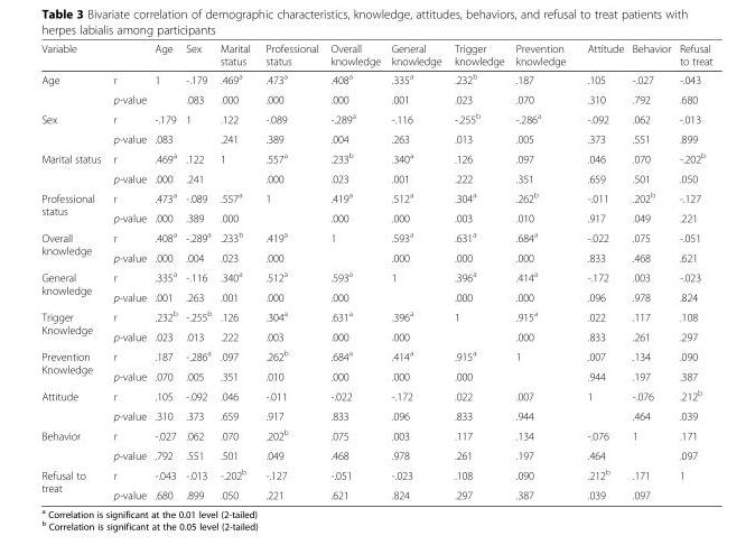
<table><thead><tr><td>Variable</td><td></td><td>Age</td><td>Sex</td><td>Marital status</td><td>Professional status</td><td>Overall knowledge</td><td>General knowledge</td><td>Trigger knowledge</td><td>Prevention knowledge</td><td>Attitude</td><td>Behavior</td><td>Refusal to treat</td></tr></thead><tbody><tr><td rowspan="2">Age</td><td>r</td><td>1</td><td>-.179</td><td>.469<sup>a</sup></td><td>.473<sup>a</sup></td><td>.408<sup>a</sup></td><td>.335<sup>a</sup></td><td>.232<sup>b</sup></td><td>.187</td><td>.105</td><td>-.027</td><td>-.043</td></tr><tr><td>p-value</td><td></td><td>.083</td><td>.000</td><td>.000</td><td>.000</td><td>.001</td><td>.023</td><td>.070</td><td>.310</td><td>.792</td><td>.680</td></tr><tr><td rowspan="2">Sex</td><td>r</td><td>-.179</td><td>1</td><td>.122</td><td>-.089</td><td>-.289<sup>a</sup></td><td>-.116</td><td>-.255<sup>b</sup></td><td>-.286<sup>a</sup></td><td>-.092</td><td>.062</td><td>-.013</td></tr><tr><td>p-value</td><td>.083</td><td></td><td>.241</td><td>.389</td><td>.004</td><td>.263</td><td>.013</td><td>.005</td><td>.373</td><td>.551</td><td>.899</td></tr><tr><td rowspan="2">Marital status</td><td>r</td><td>.469<sup>a</sup></td><td>.122</td><td>1</td><td>.557<sup>a</sup></td><td>.233<sup>b</sup></td><td>.340<sup>a</sup></td><td>.126</td><td>.097</td><td>.046</td><td>.070</td><td>-.202<sup>b</sup></td></tr><tr><td>p-value</td><td>.000</td><td>.241</td><td></td><td>.000</td><td>.023</td><td>.001</td><td>.222</td><td>.351</td><td>.659</td><td>.501</td><td>.050</td></tr><tr><td rowspan="2">Professional status</td><td>r</td><td>.473<sup>a</sup></td><td>-.089</td><td>.557<sup>a</sup></td><td>1</td><td>.419<sup>a</sup></td><td>.512<sup>a</sup></td><td>.304<sup>a</sup></td><td>.262<sup>b</sup></td><td>-.011</td><td>.202<sup>b</sup></td><td>-.127</td></tr><tr><td>p-value</td><td>.000</td><td>.389</td><td>.000</td><td></td><td>.000</td><td>.000</td><td>.003</td><td>.010</td><td>.917</td><td>.049</td><td>.221</td></tr><tr><td rowspan="2">Overall knowledge</td><td>r</td><td>.408<sup>a</sup></td><td>-.289<sup>a</sup></td><td>.233<sup>b</sup></td><td>.419<sup>a</sup></td><td>1</td><td>.593<sup>a</sup></td><td>.631<sup>a</sup></td><td>.684<sup>a</sup></td><td>-.022</td><td>.075</td><td>-.051</td></tr><tr><td>p-value</td><td>.000</td><td>.004</td><td>.023</td><td>.000</td><td></td><td>.000</td><td>.000</td><td>.000</td><td>.833</td><td>.468</td><td>.621</td></tr><tr><td rowspan="2">General knowledge</td><td>r</td><td>.335<sup>a</sup></td><td>-.116</td><td>.340<sup>a</sup></td><td>.512<sup>a</sup></td><td>.593<sup>a</sup></td><td>1</td><td>.396<sup>a</sup></td><td>.414<sup>a</sup></td><td>-.172</td><td>.003</td><td>-.023</td></tr><tr><td>p-value</td><td>.001</td><td>.263</td><td>.001</td><td>.000</td><td>.000</td><td></td><td>.000</td><td>.000</td><td>.096</td><td>.978</td><td>.824</td></tr><tr><td rowspan="2">Trigger Knowledge</td><td>r</td><td>.232<sup>b</sup></td><td>-.255<sup>b</sup></td><td>.126</td><td>.304<sup>a</sup></td><td>.631<sup>a</sup></td><td>.396<sup>a</sup></td><td>1</td><td>.915<sup>a</sup></td><td>.022</td><td>.117</td><td>.108</td></tr><tr><td>p-value</td><td>.023</td><td>.013</td><td>.222</td><td>.003</td><td>.000</td><td>.000</td><td></td><td>.000</td><td>.833</td><td>.261</td><td>.297</td></tr><tr><td rowspan="2">Prevention Knowledge</td><td>r</td><td>.187</td><td>-.286<sup>a</sup></td><td>.097</td><td>.262<sup>b</sup></td><td>.684<sup>a</sup></td><td>.414<sup>a</sup></td><td>.915<sup>a</sup></td><td>1</td><td>.007</td><td>.134</td><td>.090</td></tr><tr><td>p-value</td><td>.070</td><td>.005</td><td>.351</td><td>.010</td><td>.000</td><td>.000</td><td>.000</td><td></td><td>.944</td><td>.197</td><td>.387</td></tr><tr><td rowspan="2">Attitude</td><td>r</td><td>.105</td><td>-.092</td><td>.046</td><td>-.011</td><td>-.022</td><td>-.172</td><td>.022</td><td>.007</td><td>1</td><td>-.076</td><td>.212<sup>b</sup></td></tr><tr><td>p-value</td><td>.310</td><td>.373</td><td>.659</td><td>.917</td><td>.833</td><td>.096</td><td>.833</td><td>.944</td><td></td><td>.464</td><td>.039</td></tr><tr><td rowspan="2">Behavior</td><td>r</td><td>-.027</td><td>.062</td><td>.070</td><td>.202<sup>b</sup></td><td>.075</td><td>.003</td><td>.117</td><td>.134</td><td>-.076</td><td>1</td><td>.171</td></tr><tr><td>p-value</td><td>.792</td><td>.551</td><td>.501</td><td>.049</td><td>.468</td><td>.978</td><td>.261</td><td>.197</td><td>.464</td><td></td><td>.097</td></tr><tr><td rowspan="2">Refusal to treat</td><td>r</td><td>-.043</td><td>-.013</td><td>-.202<sup>b</sup></td><td>-.127</td><td>-.051</td><td>-.023</td><td>.108</td><td>.090</td><td>.212<sup>b</sup></td><td>.171</td><td>1</td></tr><tr><td>p-value</td><td>.680</td><td>.899</td><td>.050</td><td>.221</td><td>.621</td><td>.824</td><td>.297</td><td>.387</td><td>.039</td><td>.097</td><td></td></tr></tbody></table>